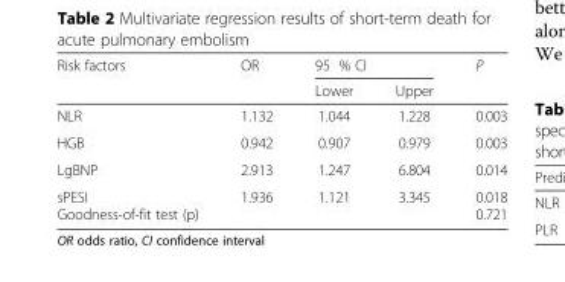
<table><thead><tr><td rowspan="2">Risk factors</td><td rowspan="2">OR</td><td colspan="2">95 % CI</td><td rowspan="2">P</td></tr><tr><td>Lower</td><td>Upper</td></tr></thead><tbody><tr><td>NLR</td><td>1.132</td><td>1.044</td><td>1.228</td><td>0.003</td></tr><tr><td>HGB</td><td>0.942</td><td>0.907</td><td>0.979</td><td>0.003</td></tr><tr><td>LgBNP</td><td>2.913</td><td>1.247</td><td>6.804</td><td>0.014</td></tr><tr><td>sPESI Goodness-of-fit test (p)</td><td>1.936</td><td>1.121</td><td>3.345</td><td>0.018 0.721</td></tr></tbody></table>